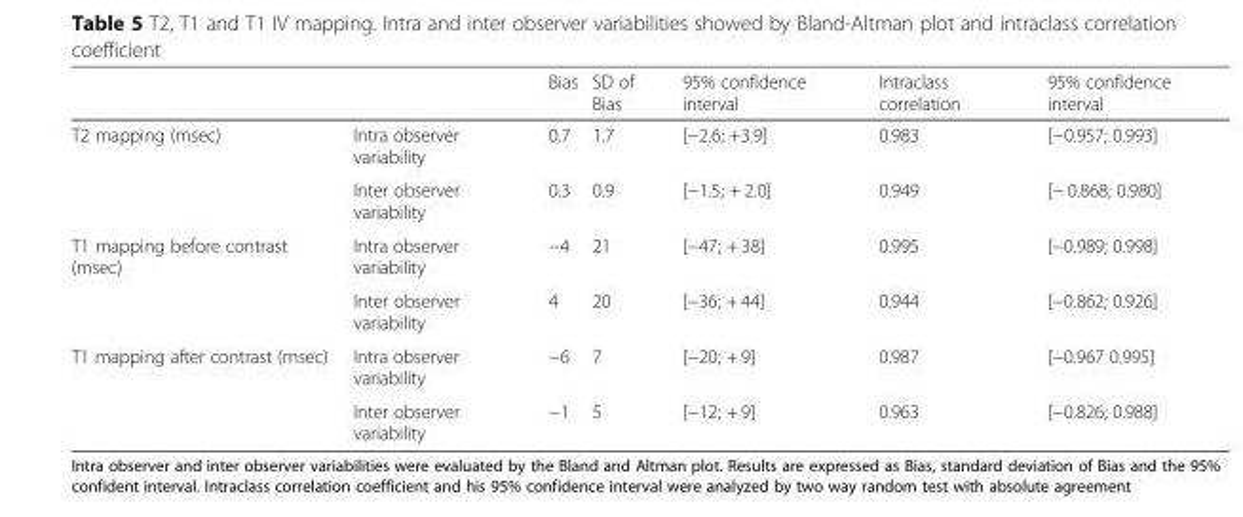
<table><thead><tr><td></td><td></td><td>Bias</td><td>SD of Bias</td><td>95% confidence interval</td><td>Intraclass correlation</td><td>95% confidence interval</td></tr></thead><tbody><tr><td rowspan="2">T2 mapping (msec)</td><td>Intra observer variability</td><td>0.7</td><td>1.7</td><td>[−2.6; +3.9]</td><td>0.983</td><td>[−0.957; 0.993]</td></tr><tr><td>Inter observer variability</td><td>0.3</td><td>0.9</td><td>[−1.5; + 2.0]</td><td>0.949</td><td>[− 0.868; 0.980]</td></tr><tr><td rowspan="2">T1 mapping before contrast (msec)</td><td>Intra observer variability</td><td>−4</td><td>21</td><td>[−47; + 38]</td><td>0.995</td><td>[−0.989; 0.998]</td></tr><tr><td>Inter observer variability</td><td>4</td><td>20</td><td>[−36; + 44]</td><td>0.944</td><td>[−0.862; 0.926]</td></tr><tr><td rowspan="2">T1 mapping after contrast (msec)</td><td>Intra observer variability</td><td>−6</td><td>7</td><td>[−20; + 9]</td><td>0.987</td><td>[−0.967 0.995]</td></tr><tr><td>Inter observer variability</td><td>−1</td><td>5</td><td>[−12; + 9]</td><td>0.963</td><td>[−0.826; 0.988]</td></tr></tbody></table>